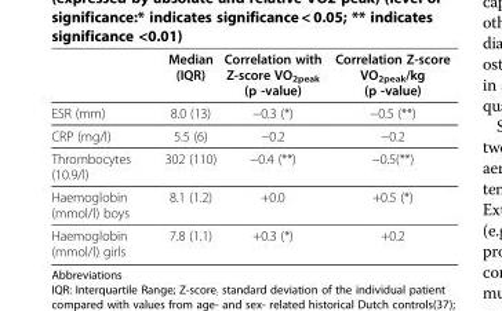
<table><thead><tr><td></td><td>Median (IQR)</td><td>Correlation with Z-score VO<sub>2peak</sub> (p -value)</td><td>Correlation Z-score VO<sub>2peak</sub>/kg (p -value)</td></tr></thead><tbody><tr><td>ESR (mm)</td><td>8.0 (13)</td><td>−0.3 (*)</td><td>−0.5 (**)</td></tr><tr><td>CRP (mg/l)</td><td>5.5 (6)</td><td>−0.2</td><td>−0.2</td></tr><tr><td>Thrombocytes (10.9/l)</td><td>302 (110)</td><td>−0.4 (**)</td><td>−0.5(**)</td></tr><tr><td>Haemoglobin (mmol/l) boys</td><td>8.1 (1.2)</td><td>+0.0</td><td>+0.5 (*)</td></tr><tr><td>Haemoglobin (mmol/l) girls</td><td>7.8 (1.1)</td><td>+0.3 (*)</td><td>+0.2</td></tr></tbody></table>